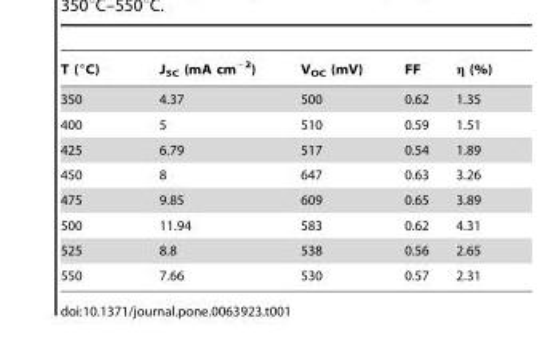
<table><thead><tr><td>T (°C)</td><td>J<sub>SC</sub> (mA cm<sup>−2</sup>)</td><td>V<sub>OC</sub> (mV)</td><td>FF</td><td>η (%)</td></tr></thead><tbody><tr><td>350</td><td>4.37</td><td>500</td><td>0.62</td><td>1.35</td></tr><tr><td>400</td><td>5</td><td>510</td><td>0.59</td><td>1.51</td></tr><tr><td>425</td><td>6.79</td><td>517</td><td>0.54</td><td>1.89</td></tr><tr><td>450</td><td>8</td><td>647</td><td>0.63</td><td>3.26</td></tr><tr><td>475</td><td>9.85</td><td>609</td><td>0.65</td><td>3.89</td></tr><tr><td>500</td><td>11.94</td><td>583</td><td>0.62</td><td>4.31</td></tr><tr><td>525</td><td>8.8</td><td>538</td><td>0.56</td><td>2.65</td></tr><tr><td>550</td><td>7.66</td><td>530</td><td>0.57</td><td>2.31</td></tr></tbody></table>